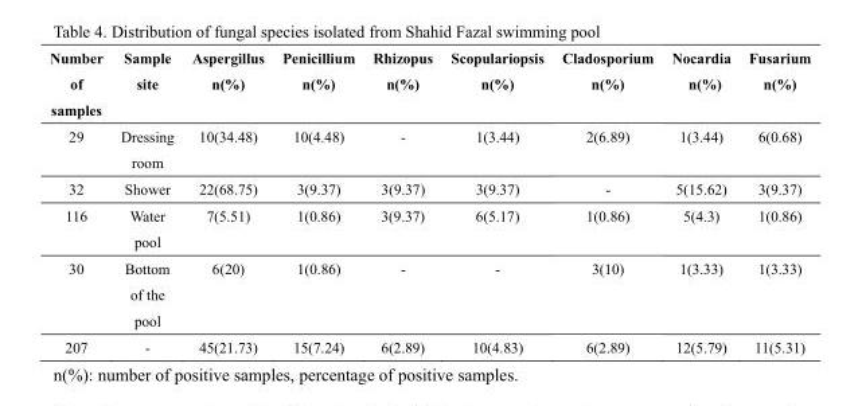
<table><thead><tr><td>Number of samples</td><td>Sample site</td><td>Aspergillus n(%)</td><td>Penicillium n(%)</td><td>Rhizopus n(%)</td><td>Scopulariopsis n(%)</td><td>Cladosporium n(%)</td><td>Nocardia n(%)</td><td>Fusarium n(%)</td></tr></thead><tbody><tr><td>29</td><td>Dressing room</td><td>10(34.48)</td><td>10(4.48)</td><td>-</td><td>1(3.44)</td><td>2(6.89)</td><td>1(3.44)</td><td>6(0.68)</td></tr><tr><td>32</td><td>Shower</td><td>22(68.75)</td><td>3(9.37)</td><td>3(9.37)</td><td>3(9.37)</td><td>-</td><td>5(15.62)</td><td>3(9.37)</td></tr><tr><td>116</td><td>Water pool</td><td>7(5.51)</td><td>1(0.86)</td><td>3(9.37)</td><td>6(5.17)</td><td>1(0.86)</td><td>5(4.3)</td><td>1(0.86)</td></tr><tr><td>30</td><td>Bottom of the pool</td><td>6(20)</td><td>1(0.86)</td><td>-</td><td>-</td><td>3(10)</td><td>1(3.33)</td><td>1(3.33)</td></tr><tr><td>207</td><td>-</td><td>45(21.73)</td><td>15(7.24)</td><td>6(2.89)</td><td>10(4.83)</td><td>6(2.89)</td><td>12(5.79)</td><td>11(5.31)</td></tr></tbody></table>